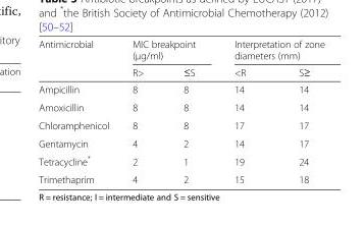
<table><thead><tr><td rowspan="2">Antimicrobial</td><td colspan="2">MIC breakpoint (μg/ml)</td><td colspan="2">Interpretation of zone diameters (mm)</td></tr><tr><td>R&gt;</td><td>≤S</td><td>&lt;R</td><td>S≥</td></tr></thead><tbody><tr><td>Ampicillin</td><td>8</td><td>8</td><td>14</td><td>14</td></tr><tr><td>Amoxicillin</td><td>8</td><td>8</td><td>14</td><td>14</td></tr><tr><td>Chloramphenicol</td><td>8</td><td>8</td><td>17</td><td>17</td></tr><tr><td>Gentamycin</td><td>4</td><td>2</td><td>14</td><td>17</td></tr><tr><td>Tetracycline*</td><td>2</td><td>1</td><td>19</td><td>24</td></tr><tr><td>Trimethaprim</td><td>4</td><td>2</td><td>15</td><td>18</td></tr></tbody></table>